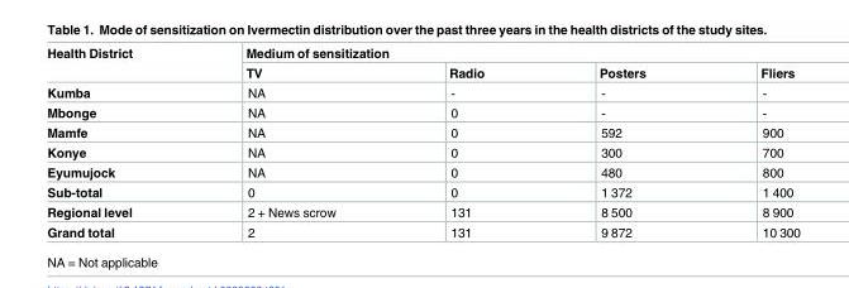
<table><thead><tr><td rowspan="2">Health District</td><td colspan="4">Medium of sensitization</td></tr><tr><td>TV</td><td>Radio</td><td>Posters</td><td>Fliers</td></tr></thead><tbody><tr><td>Kumba</td><td>NA</td><td>-</td><td>-</td><td>-</td></tr><tr><td>Mbonge</td><td>NA</td><td>0</td><td>-</td><td>-</td></tr><tr><td>Mamfe</td><td>NA</td><td>0</td><td>592</td><td>900</td></tr><tr><td>Konye</td><td>NA</td><td>0</td><td>300</td><td>700</td></tr><tr><td>Eyumujock</td><td>NA</td><td>0</td><td>480</td><td>800</td></tr><tr><td>Sub-total</td><td>0</td><td>0</td><td>1 372</td><td>1 400</td></tr><tr><td>Regional level</td><td>2 + News scrow</td><td>131</td><td>8 500</td><td>8 900</td></tr><tr><td>Grand total</td><td>2</td><td>131</td><td>9 872</td><td>10 300</td></tr></tbody></table>